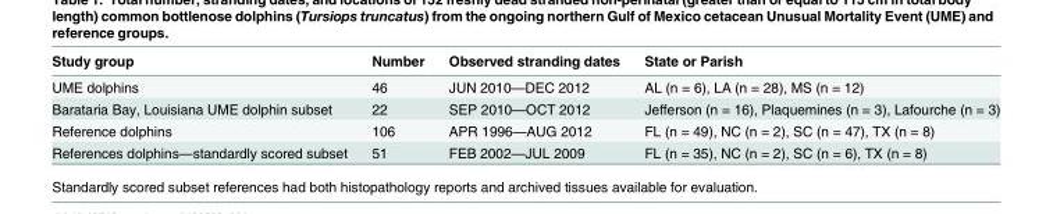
<table><thead><tr><td>Study group</td><td>Number</td><td>Observed stranding dates</td><td>State or Parish</td></tr></thead><tbody><tr><td>UME dolphins</td><td>46</td><td>JUN 2010—DEC 2012</td><td>AL (n = 6), LA (n = 28), MS (n = 12)</td></tr><tr><td>Barataria Bay, Louisiana UME dolphin subset</td><td>22</td><td>SEP 2010—OCT 2012</td><td>Jefferson (n = 16), Plaquemines (n = 3), Lafourche (n = 3)</td></tr><tr><td>Reference dolphins</td><td>106</td><td>APR 1996—AUG 2012</td><td>FL (n = 49), NC (n = 2), SC (n = 47), TX (n = 8)</td></tr><tr><td>References dolphins—standardly scored subset</td><td>51</td><td>FEB 2002—JUL 2009</td><td>FL (n = 35), NC (n = 2), SC (n = 6), TX (n = 8)</td></tr></tbody></table>